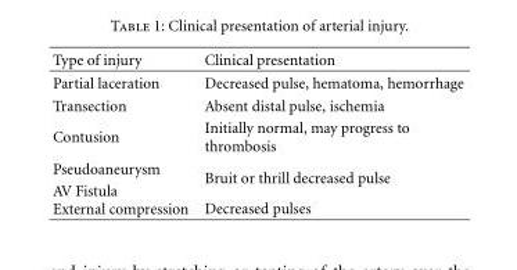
<table><thead><tr><td>Type of injury</td><td>Clinical presentation</td></tr></thead><tbody><tr><td>Partial laceration</td><td>Decreased pulse, hematoma, hemorrhage</td></tr><tr><td>Transection</td><td>Absent distal pulse, ischemia</td></tr><tr><td>Contusion</td><td>Initially normal, may progress to thrombosis</td></tr><tr><td>Pseudoaneurysm</td><td rowspan="2">Bruit or thrill decreased pulse</td></tr><tr><td>AV Fistula</td></tr><tr><td>External compression</td><td>Decreased pulses</td></tr></tbody></table>